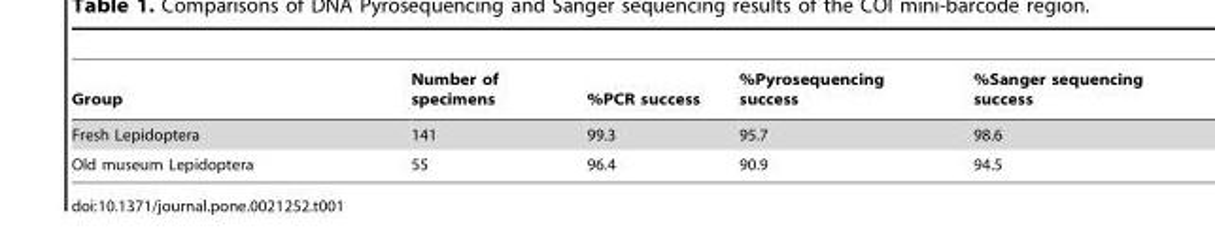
<table><thead><tr><td>Group</td><td>Number of specimens</td><td>%PCR success</td><td>%Pyrosequencing success</td><td>%Sanger sequencing success</td></tr></thead><tbody><tr><td>Fresh Lepidoptera</td><td>141</td><td>99.3</td><td>95.7</td><td>98.6</td></tr><tr><td>Old museum Lepidoptera</td><td>55</td><td>96.4</td><td>90.9</td><td>94.5</td></tr></tbody></table>